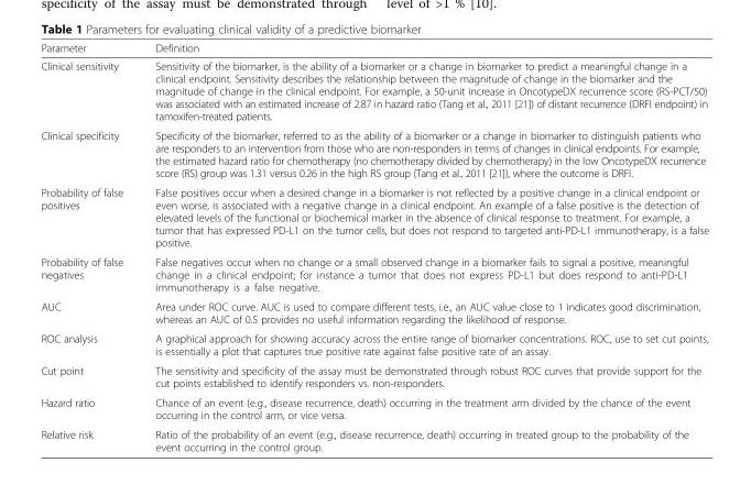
<table><thead><tr><td>Parameter</td><td>Definition</td></tr></thead><tbody><tr><td>Clinical sensitivity</td><td>Sensitivity of the biomarker, is the ability of a biomarker or a change in biomarker to predict a meaningful change in a clinical endpoint. Sensitivity describes the relationship between the magnitude of change in the biomarker and the magnitude of change in the clinical endpoint. For example, a 50-unit increase in OncotypeDX recurrence score (RS-PCT/50) was associated with an estimated increase of 2.87 in hazard ratio (Tang et al., 2011 [21]) of distant recurrence (DRFI endpoint) in tamoxifen-treated patients.</td></tr><tr><td>Clinical specificity</td><td>Specificity of the biomarker, referred to as the ability of a biomarker or a change in biomarker to distinguish patients who are responders to an intervention from those who are non-responders in terms of changes in clinical endpoints. For example, the estimated hazard ratio for chemotherapy (no chemotherapy divided by chemotherapy) in the low OncotypeDX recurrence score (RS) group was 1.31 versus 0.26 in the high RS group (Tang et al., 2011 [21]), where the outcome is DRFI.</td></tr><tr><td>Probability of false positives</td><td>False positives occur when a desired change in a biomarker is not reflected by a positive change in a clinical endpoint or even worse, is associated with a negative change in a clinical endpoint. An example of a false positive is the detection of elevated levels of the functional or biochemical marker in the absence of clinical response to treatment. For example, a tumor that has expressed PD-L1 on the tumor cells, but does not respond to targeted anti-PD-L1 immunotherapy, is a false positive.</td></tr><tr><td>Probability of false negatives</td><td>False negatives occur when no change or a small observed change in a biomarker fails to signal a positive, meaningful change in a clinical endpoint; for instance a tumor that does not express PD-L1 but does respond to anti-PD-L1 immunotherapy is a false negative.</td></tr><tr><td>AUC</td><td>Area under ROC curve. AUC is used to compare different tests, i.e., an AUC value close to 1 indicates good discrimination, whereas an AUC of 0.5 provides no useful information regarding the likelihood of response.</td></tr><tr><td>ROC analysis</td><td>A graphical approach for showing accuracy across the entire range of biomarker concentrations. ROC, use to set cut points, is essentially a plot that captures true positive rate against false positive rate of an assay.</td></tr><tr><td>Cut point</td><td>The sensitivity and specificity of the assay must be demonstrated through robust ROC curves that provide support for the cut points established to identify responders vs. non-responders.</td></tr><tr><td>Hazard ratio</td><td>Chance of an event (e.g., disease recurrence, death) occurring in the treatment arm divided by the chance of the event occurring in the control arm, or vice versa.</td></tr><tr><td>Relative risk</td><td>Ratio of the probability of an event (e.g., disease recurrence, death) occurring in treated group to the probability of the event occurring in the control group.</td></tr></tbody></table>